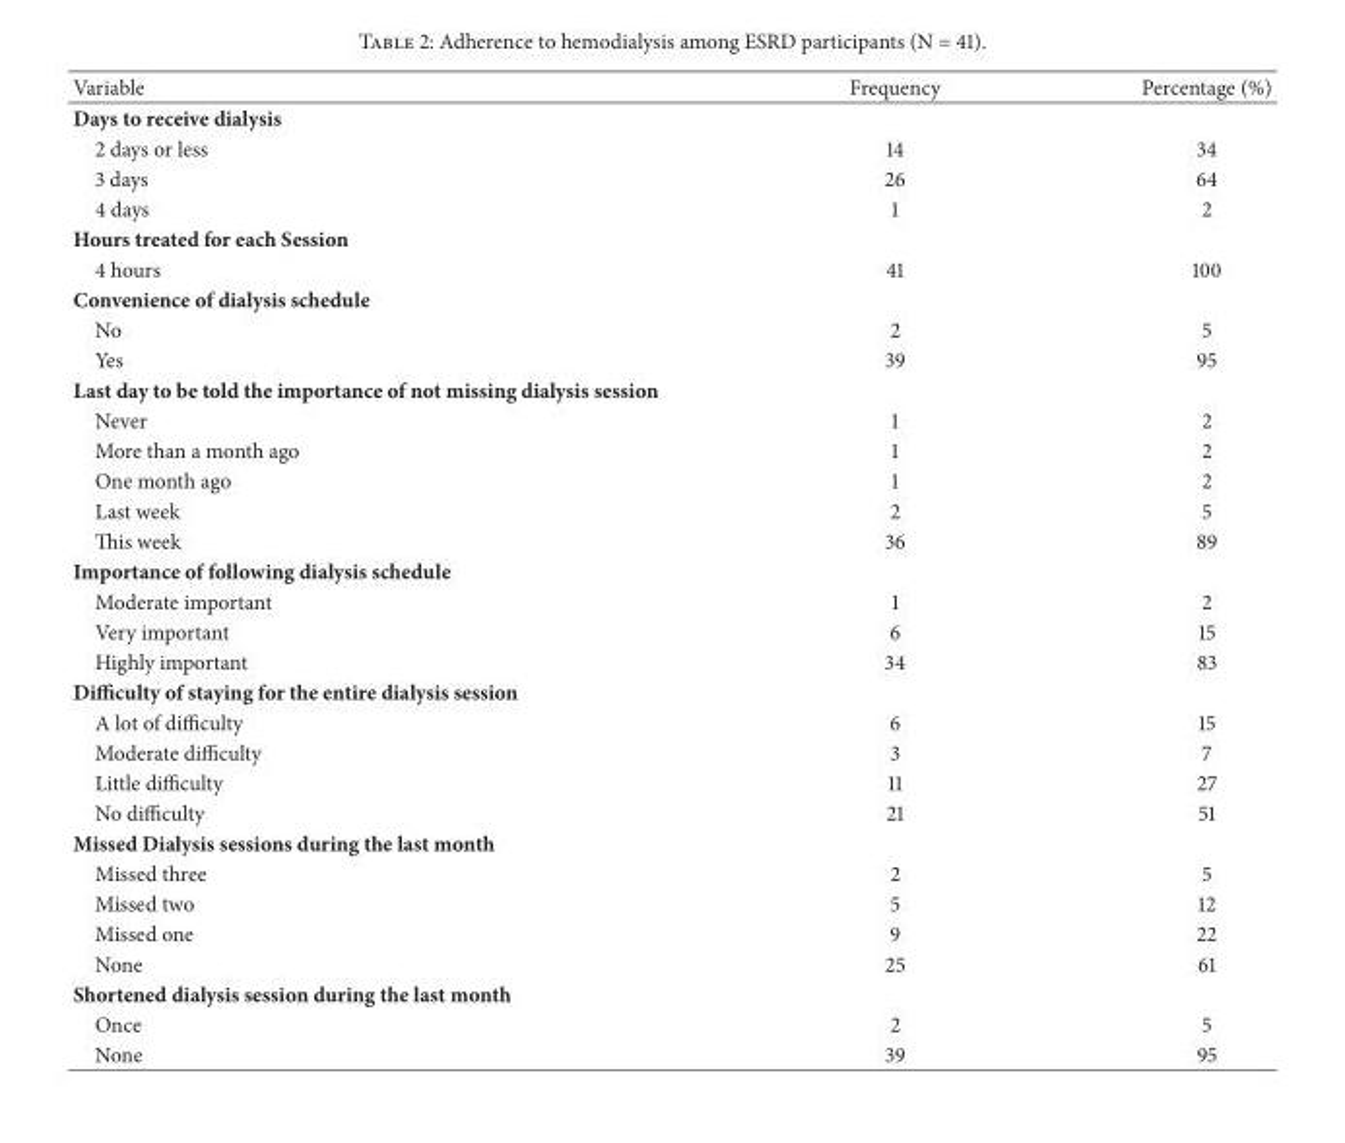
<table><thead><tr><td>Variable</td><td>Frequency</td><td>Percentage (%)</td></tr></thead><tbody><tr><td colspan="3">Days to receive dialysis</td></tr><tr><td>2 days or less</td><td>14</td><td>34</td></tr><tr><td>3 days</td><td>26</td><td>64</td></tr><tr><td>4 days</td><td>1</td><td>2</td></tr><tr><td colspan="3">Hours treated for each Session</td></tr><tr><td>4 hours</td><td>41</td><td>100</td></tr><tr><td colspan="3">Convenience of dialysis schedule</td></tr><tr><td>No</td><td>2</td><td>5</td></tr><tr><td>Yes</td><td>39</td><td>95</td></tr><tr><td colspan="3">Last day to be told the importance of not missing dialysis session</td></tr><tr><td>Never</td><td>1</td><td>2</td></tr><tr><td>More than a month ago</td><td>1</td><td>2</td></tr><tr><td>One month ago</td><td>1</td><td>2</td></tr><tr><td>Last week</td><td>2</td><td>5</td></tr><tr><td>This week</td><td>36</td><td>89</td></tr><tr><td colspan="3">Importance of following dialysis schedule</td></tr><tr><td>Moderate important</td><td>1</td><td>2</td></tr><tr><td>Very important</td><td>6</td><td>15</td></tr><tr><td>Highly important</td><td>34</td><td>83</td></tr><tr><td colspan="3">Difficulty of staying for the entire dialysis session</td></tr><tr><td>A lot of difficulty</td><td>6</td><td>15</td></tr><tr><td>Moderate difficulty</td><td>3</td><td>7</td></tr><tr><td>Little difficulty</td><td>11</td><td>27</td></tr><tr><td>No difficulty</td><td>21</td><td>51</td></tr><tr><td colspan="3">Missed Dialysis sessions during the last month</td></tr><tr><td>Missed three</td><td>2</td><td>5</td></tr><tr><td>Missed two</td><td>5</td><td>12</td></tr><tr><td>Missed one</td><td>9</td><td>22</td></tr><tr><td>None</td><td>25</td><td>61</td></tr><tr><td colspan="3">Shortened dialysis session during the last month</td></tr><tr><td>Once</td><td>2</td><td>5</td></tr><tr><td>None</td><td>39</td><td>95</td></tr></tbody></table>